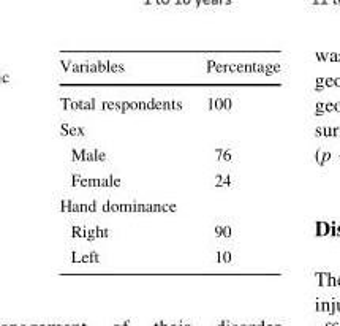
<table><thead><tr><td>Variables</td><td>Percentage</td></tr></thead><tbody><tr><td>Total respondents</td><td>100</td></tr><tr><td colspan="2">Sex</td></tr><tr><td>Male</td><td>76</td></tr><tr><td>Female</td><td>24</td></tr><tr><td colspan="2">Hand dominance</td></tr><tr><td>Right</td><td>90</td></tr><tr><td>Left</td><td>10</td></tr></tbody></table>